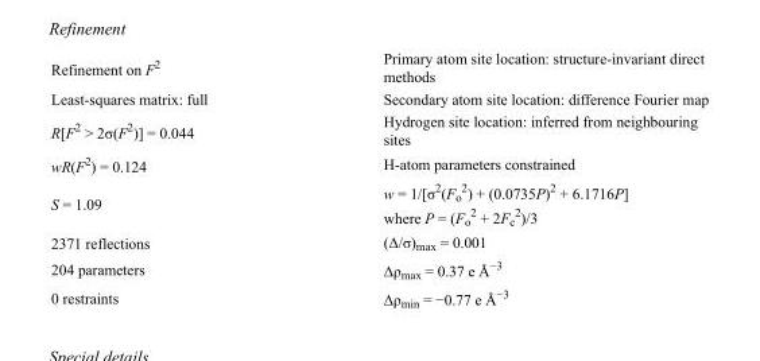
<table><tbody><tr><td>Refinement on F<sup>2</sup></td><td>Primary atom site location: structure-invariant direct methods</td></tr><tr><td>Least-squares matrix: full</td><td>Secondary atom site location: difference Fourier map</td></tr><tr><td>R[F<sup>2</sup> &gt; 2σ(F<sup>2</sup>)] = 0.044</td><td>Hydrogen site location: inferred from neighbouring sites</td></tr><tr><td>wR(F<sup>2</sup>) = 0.124</td><td>H-atom parameters constrained</td></tr><tr><td>S = 1.09</td><td>w = 1/[σ<sup>2</sup>(F<sub>o</sub> <sup>2</sup>) + (0.0735P)<sup>2</sup> + 6.1716P] where P = (F<sub>o</sub> <sup>2</sup> + 2F<sub>c</sub> <sup>2</sup>)/3</td></tr><tr><td>2371 reflections</td><td>(Δ/σ)<sub>max</sub> = 0.001</td></tr><tr><td>204 parameters</td><td>Δρ<sub>max</sub> = 0.37 e Å<sup>−3</sup></td></tr><tr><td>0 restraints</td><td>Δρ<sub>min</sub> = −0.77 e Å<sup>−3</sup></td></tr></tbody></table>